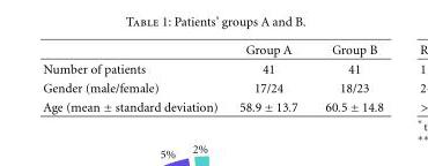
<table><thead><tr><td></td><td>Group A</td><td>Group B</td></tr></thead><tbody><tr><td>Number of patients</td><td>41</td><td>41</td></tr><tr><td>Gender (male/female)</td><td>17/24</td><td>18/23</td></tr><tr><td>Age (mean ± standard deviation)</td><td>58.9 ± 13.7</td><td>60.5 ± 14.8</td></tr></tbody></table>